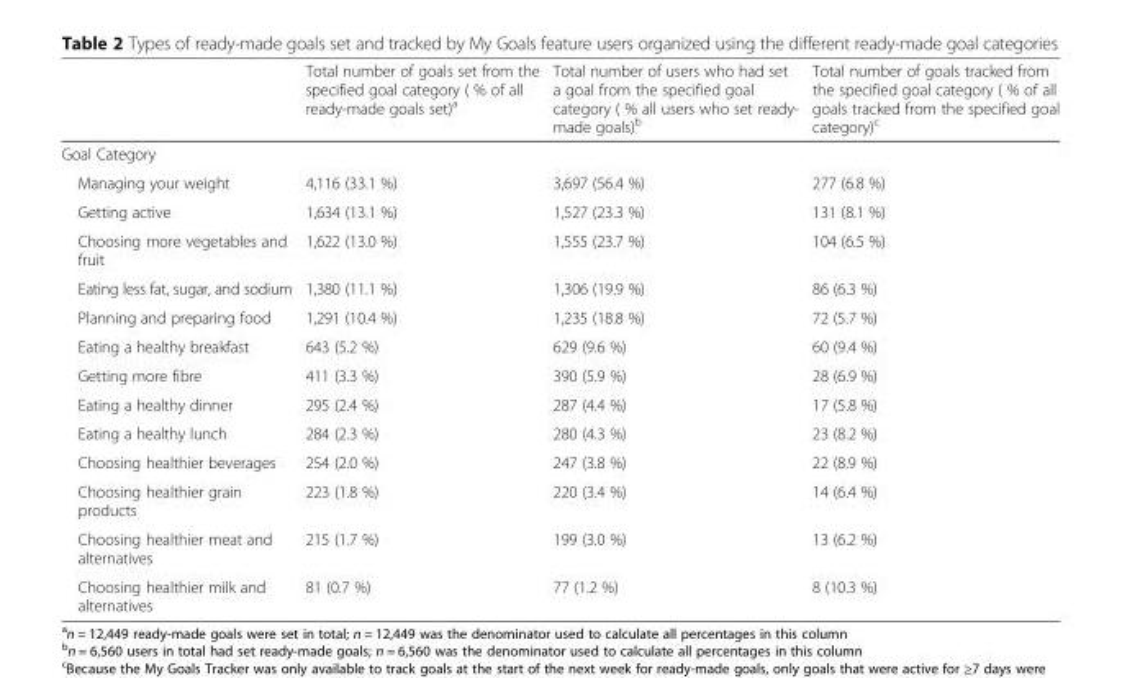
<table><thead><tr><td></td><td>Total number of goals set from the specified goal category ( % of all ready-made goals set)<sup>a</sup></td><td>Total number of users who had set a goal from the specified goal category ( % all users who set ready- made goals)<sup>b</sup></td><td>Total number of goals tracked from the specified goal category ( % of all goals tracked from the specified goal category)<sup>c</sup></td></tr></thead><tbody><tr><td colspan="4">Goal Category</td></tr><tr><td>Managing your weight</td><td>4,116 (33.1 %)</td><td>3,697 (56.4 %)</td><td>277 (6.8 %)</td></tr><tr><td>Getting active</td><td>1,634 (13.1 %)</td><td>1,527 (23.3 %)</td><td>131 (8.1 %)</td></tr><tr><td>Choosing more vegetables and fruit</td><td>1,622 (13.0 %)</td><td>1,555 (23.7 %)</td><td>104 (6.5 %)</td></tr><tr><td>Eating less fat, sugar, and sodium</td><td>1,380 (11.1 %)</td><td>1,306 (19.9 %)</td><td>86 (6.3 %)</td></tr><tr><td>Planning and preparing food</td><td>1,291 (10.4 %)</td><td>1,235 (18.8 %)</td><td>72 (5.7 %)</td></tr><tr><td>Eating a healthy breakfast</td><td>643 (5.2 %)</td><td>629 (9.6 %)</td><td>60 (9.4 %)</td></tr><tr><td>Getting more fibre</td><td>411 (3.3 %)</td><td>390 (5.9 %)</td><td>28 (6.9 %)</td></tr><tr><td>Eating a healthy dinner</td><td>295 (2.4 %)</td><td>287 (4.4 %)</td><td>17 (5.8 %)</td></tr><tr><td>Eating a healthy lunch</td><td>284 (2.3 %)</td><td>280 (4.3 %)</td><td>23 (8.2 %)</td></tr><tr><td>Choosing healthier beverages</td><td>254 (2.0 %)</td><td>247 (3.8 %)</td><td>22 (8.9 %)</td></tr><tr><td>Choosing healthier grain products</td><td>223 (1.8 %)</td><td>220 (3.4 %)</td><td>14 (6.4 %)</td></tr><tr><td>Choosing healthier meat and alternatives</td><td>215 (1.7 %)</td><td>199 (3.0 %)</td><td>13 (6.2 %)</td></tr><tr><td>Choosing healthier milk and alternatives</td><td>81 (0.7 %)</td><td>77 (1.2 %)</td><td>8 (10.3 %)</td></tr></tbody></table>